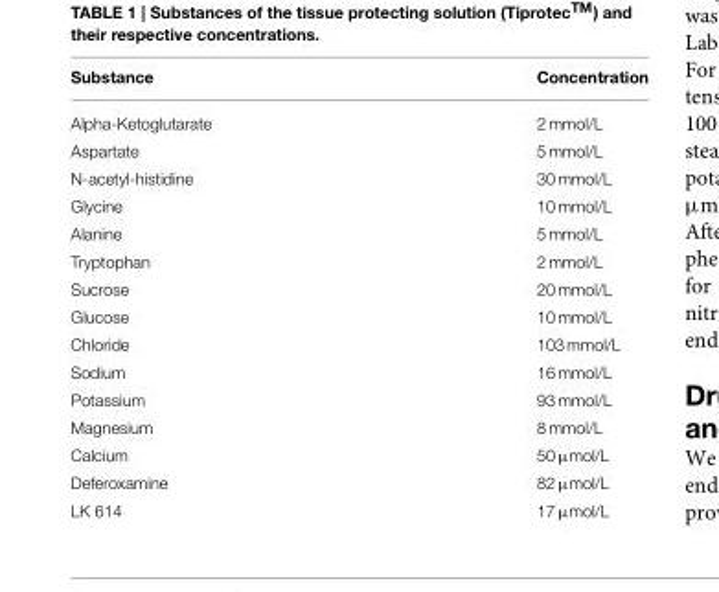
<table><thead><tr><td>Substance</td><td>Concentration</td></tr></thead><tbody><tr><td>Alpha-Ketoglutarate</td><td>2 mmol/L</td></tr><tr><td>Aspartate</td><td>5 mmol/L</td></tr><tr><td>N-acetyl-histidine</td><td>30 mmol/L</td></tr><tr><td>Glycine</td><td>10 mmol/L</td></tr><tr><td>Alanine</td><td>5 mmol/L</td></tr><tr><td>Tryptophan</td><td>2 mmol/L</td></tr><tr><td>Sucrose</td><td>20 mmol/L</td></tr><tr><td>Glucose</td><td>10 mmol/L</td></tr><tr><td>Chloride</td><td>103 mmol/L</td></tr><tr><td>Sodium</td><td>16 mmol/L</td></tr><tr><td>Potassium</td><td>93 mmol/L</td></tr><tr><td>Magnesium</td><td>8 mmol/L</td></tr><tr><td>Calcium</td><td>50 µmol/L</td></tr><tr><td>Deferoxamine</td><td>82 µmol/L</td></tr><tr><td>LK 614</td><td>17 µmol/L</td></tr></tbody></table>